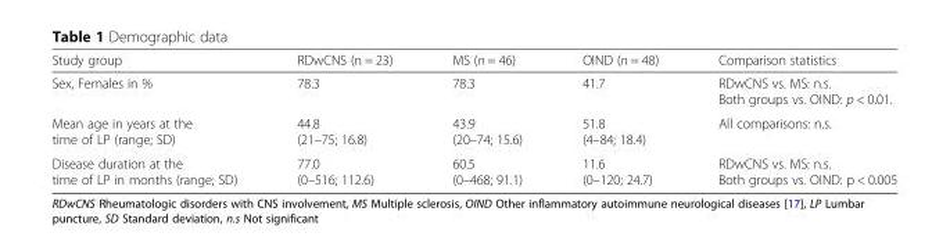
<table><thead><tr><td>Study group</td><td>RDwCNS (n = 23)</td><td>MS (n = 46)</td><td>OIND (n = 48)</td><td>Comparison statistics</td></tr></thead><tbody><tr><td>Sex, Females in %</td><td>78.3</td><td>78.3</td><td>41.7</td><td>RDwCNS vs. MS: n.s. Both groups vs. OIND: p &lt; 0.01.</td></tr><tr><td>Mean age in years at the time of LP (range; SD)</td><td>44.8 (21–75; 16.8)</td><td>43.9 (20–74; 15.6)</td><td>51.8 (4–84; 18.4)</td><td>All comparisons: n.s.</td></tr><tr><td>Disease duration at the time of LP in months (range; SD)</td><td>77.0 (0–516; 112.6)</td><td>60.5 (0–468; 91.1)</td><td>11.6 (0–120; 24.7)</td><td>RDwCNS vs. MS: n.s. Both groups vs. OIND: p &lt; 0.005</td></tr></tbody></table>